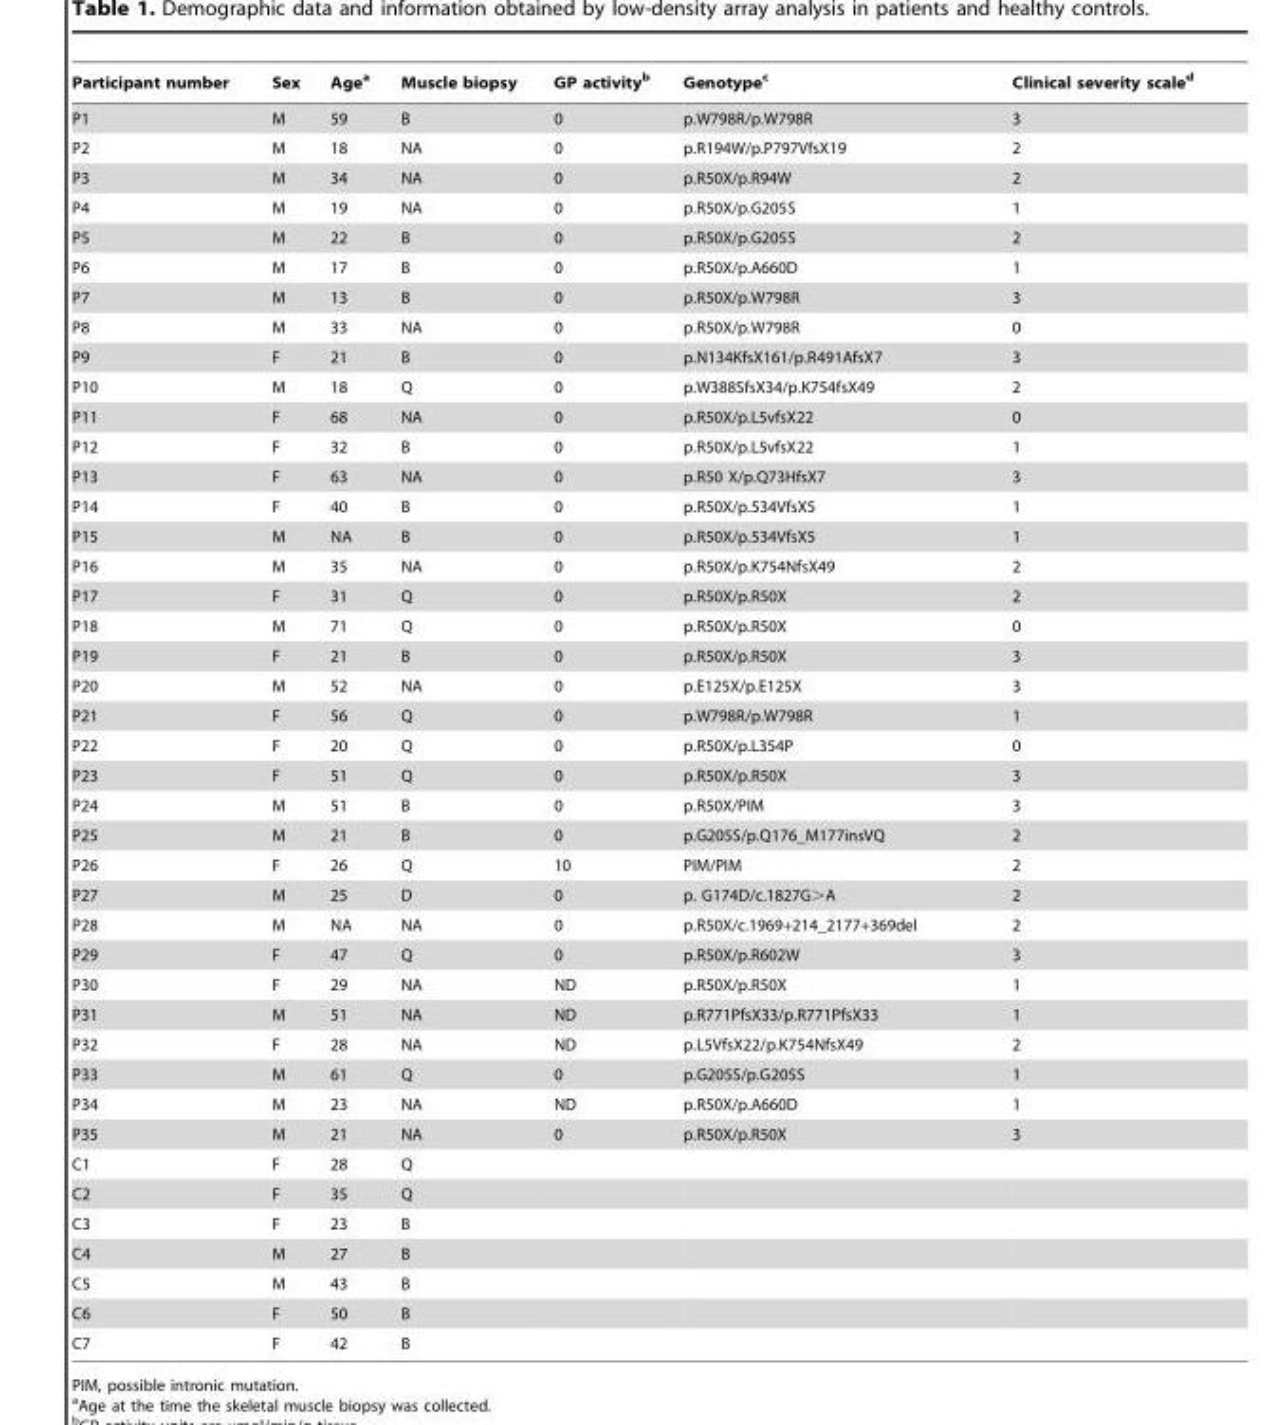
<table><thead><tr><td>Participant number</td><td>Sex</td><td>Age<sup>a</sup></td><td>Muscle biopsy</td><td>GP activity<sup>b</sup></td><td>Genotype<sup>c</sup></td><td>Clinical severity scale<sup>d</sup></td></tr></thead><tbody><tr><td>P1</td><td>M</td><td>59</td><td>B</td><td>0</td><td>p.W798R/p.W798R</td><td>3</td></tr><tr><td>P2</td><td>M</td><td>18</td><td>NA</td><td>0</td><td>p.R194W/p.P797VfsX19</td><td>2</td></tr><tr><td>P3</td><td>M</td><td>34</td><td>NA</td><td>0</td><td>p.R50X/p.R94W</td><td>2</td></tr><tr><td>P4</td><td>M</td><td>19</td><td>NA</td><td>0</td><td>p.R50X/p.G205S</td><td>1</td></tr><tr><td>P5</td><td>M</td><td>22</td><td>B</td><td>0</td><td>p.R50X/p.G205S</td><td>2</td></tr><tr><td>P6</td><td>M</td><td>17</td><td>B</td><td>0</td><td>p.R50X/p.A660D</td><td>1</td></tr><tr><td>P7</td><td>M</td><td>13</td><td>B</td><td>0</td><td>p.R50X/p.W798R</td><td>3</td></tr><tr><td>P8</td><td>M</td><td>33</td><td>NA</td><td>0</td><td>p.R50X/p.W798R</td><td>0</td></tr><tr><td>P9</td><td>F</td><td>21</td><td>B</td><td>0</td><td>p.N134KfsX161/p.R491AfsX7</td><td>3</td></tr><tr><td>P10</td><td>M</td><td>18</td><td>Q</td><td>0</td><td>p.W388SfsX34/p.K754fsX49</td><td>2</td></tr><tr><td>P11</td><td>F</td><td>68</td><td>NA</td><td>0</td><td>p.R50X/p.L5vfsX22</td><td>0</td></tr><tr><td>P12</td><td>F</td><td>32</td><td>B</td><td>0</td><td>p.R50X/p.L5vfsX22</td><td>1</td></tr><tr><td>P13</td><td>F</td><td>63</td><td>NA</td><td>0</td><td>p.R50 X/p.Q73HfsX7</td><td>3</td></tr><tr><td>P14</td><td>F</td><td>40</td><td>B</td><td>0</td><td>p.R50X/p.534VfsX5</td><td>1</td></tr><tr><td>P15</td><td>M</td><td>NA</td><td>B</td><td>0</td><td>p.R50X/p.534VfsX5</td><td>1</td></tr><tr><td>P16</td><td>M</td><td>35</td><td>NA</td><td>0</td><td>p.R50X/p.K754NfsX49</td><td>2</td></tr><tr><td>P17</td><td>F</td><td>31</td><td>Q</td><td>0</td><td>p.R50X/p.R50X</td><td>2</td></tr><tr><td>P18</td><td>M</td><td>71</td><td>Q</td><td>0</td><td>p.R50X/p.R50X</td><td>0</td></tr><tr><td>P19</td><td>F</td><td>21</td><td>B</td><td>0</td><td>p.R50X/p.R50X</td><td>3</td></tr><tr><td>P20</td><td>M</td><td>52</td><td>NA</td><td>0</td><td>p.E125X/p.E125X</td><td>3</td></tr><tr><td>P21</td><td>F</td><td>56</td><td>Q</td><td>0</td><td>p.W798R/p.W798R</td><td>1</td></tr><tr><td>P22</td><td>F</td><td>20</td><td>Q</td><td>0</td><td>p.R50X/p.L354P</td><td>0</td></tr><tr><td>P23</td><td>F</td><td>51</td><td>Q</td><td>0</td><td>p.R50X/p.R50X</td><td>3</td></tr><tr><td>P24</td><td>M</td><td>51</td><td>B</td><td>0</td><td>p.R50X/PIM</td><td>3</td></tr><tr><td>P25</td><td>M</td><td>21</td><td>B</td><td>0</td><td>p.G205S/p.Q176_M177insVQ</td><td>2</td></tr><tr><td>P26</td><td>F</td><td>26</td><td>Q</td><td>10</td><td>PIM/PIM</td><td>2</td></tr><tr><td>P27</td><td>M</td><td>25</td><td>D</td><td>0</td><td>p. G174D/c.1827G&gt;A</td><td>2</td></tr><tr><td>P28</td><td>M</td><td>NA</td><td>NA</td><td>0</td><td>p.R50X/c.1969+214_2177+369del</td><td>2</td></tr><tr><td>P29</td><td>F</td><td>47</td><td>Q</td><td>0</td><td>p.R50X/p.R602W</td><td>3</td></tr><tr><td>P30</td><td>F</td><td>29</td><td>NA</td><td>ND</td><td>p.R50X/p.R50X</td><td>1</td></tr><tr><td>P31</td><td>M</td><td>51</td><td>NA</td><td>ND</td><td>p.R771PfsX33/p.R771PfsX33</td><td>1</td></tr><tr><td>P32</td><td>F</td><td>28</td><td>NA</td><td>ND</td><td>p.L5VfsX22/p.K754NfsX49</td><td>2</td></tr><tr><td>P33</td><td>M</td><td>61</td><td>Q</td><td>0</td><td>p.G205S/p.G205S</td><td>1</td></tr><tr><td>P34</td><td>M</td><td>23</td><td>NA</td><td>ND</td><td>p.R50X/p.A660D</td><td>1</td></tr><tr><td>P35</td><td>M</td><td>21</td><td>NA</td><td>0</td><td>p.R50X/p.R50X</td><td>3</td></tr><tr><td>C1</td><td>F</td><td>28</td><td>Q</td><td></td><td></td><td></td></tr><tr><td>C2</td><td>F</td><td>35</td><td>Q</td><td></td><td></td><td></td></tr><tr><td>C3</td><td>F</td><td>23</td><td>B</td><td></td><td></td><td></td></tr><tr><td>C4</td><td>M</td><td>27</td><td>B</td><td></td><td></td><td></td></tr><tr><td>C5</td><td>M</td><td>43</td><td>B</td><td></td><td></td><td></td></tr><tr><td>C6</td><td>F</td><td>50</td><td>B</td><td></td><td></td><td></td></tr><tr><td>C7</td><td>F</td><td>42</td><td>B</td><td></td><td></td><td></td></tr></tbody></table>